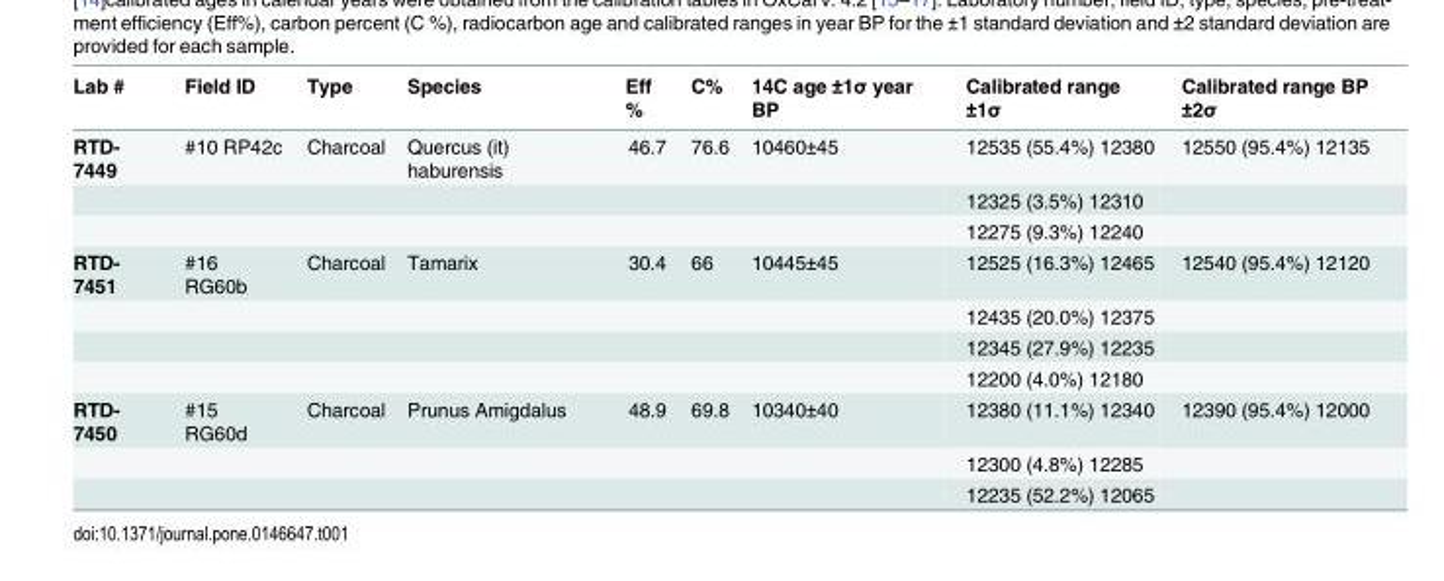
<table><thead><tr><td>Lab #</td><td>Field ID</td><td>Type</td><td>Species</td><td>Eff %</td><td>C%</td><td>14C age ±1σ year BP</td><td>Calibrated range ±1σ</td><td>Calibrated range BP ±2σ</td></tr></thead><tbody><tr><td rowspan="3">RTD- 7449</td><td>#10 RP42c</td><td>Charcoal</td><td>Quercus (it) haburensis</td><td>46.7</td><td>76.6</td><td>10460±45</td><td>12535 (55.4%) 12380</td><td>12550 (95.4%) 12135</td></tr><tr><td></td><td></td><td></td><td></td><td></td><td></td><td>12325 (3.5%) 12310</td><td></td></tr><tr><td></td><td></td><td></td><td></td><td></td><td></td><td>12275 (9.3%) 12240</td><td></td></tr><tr><td rowspan="4">RTD- 7451</td><td>#16 RG60b</td><td>Charcoal</td><td>Tamarix</td><td>30.4</td><td>66</td><td>10445±45</td><td>12525 (16.3%) 12465</td><td>12540 (95.4%) 12120</td></tr><tr><td></td><td></td><td></td><td></td><td></td><td></td><td>12435 (20.0%) 12375</td><td></td></tr><tr><td></td><td></td><td></td><td></td><td></td><td></td><td>12345 (27.9%) 12235</td><td></td></tr><tr><td></td><td></td><td></td><td></td><td></td><td></td><td>12200 (4.0%) 12180</td><td></td></tr><tr><td rowspan="3">RTD- 7450</td><td>#15 RG60d</td><td>Charcoal</td><td>Prunus Amigdalus</td><td>48.9</td><td>69.8</td><td>10340±40</td><td>12380 (11.1%) 12340</td><td>12390 (95.4%) 12000</td></tr><tr><td></td><td></td><td></td><td></td><td></td><td></td><td>12300 (4.8%) 12285</td><td></td></tr><tr><td></td><td></td><td></td><td></td><td></td><td></td><td>12235 (52.2%) 12065</td><td></td></tr></tbody></table>